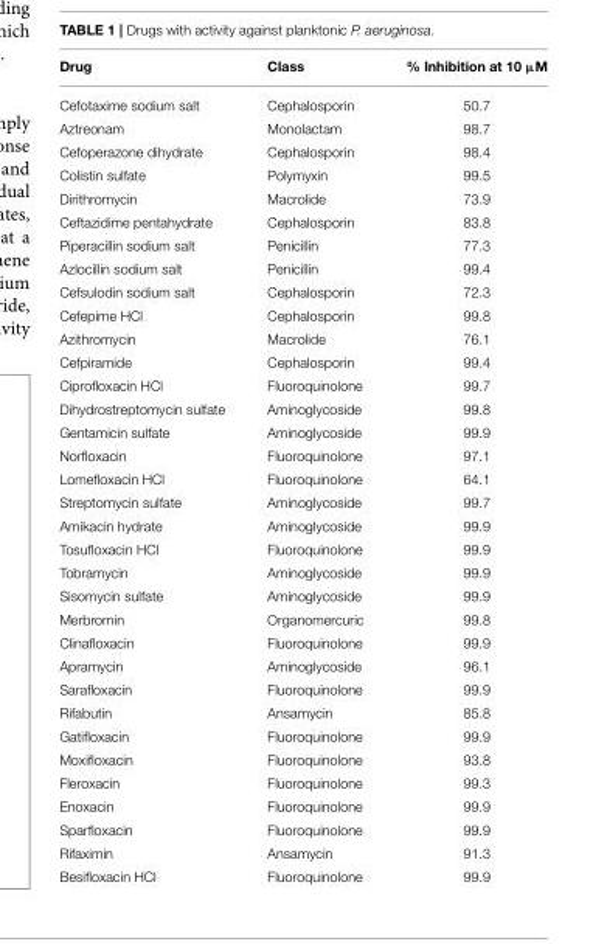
<table><thead><tr><td>Drug</td><td>Class</td><td>% Inhibition at 10 µM</td></tr></thead><tbody><tr><td>Cefotaxime sodium salt</td><td>Cephalosporin</td><td>50.7</td></tr><tr><td>Aztreonam</td><td>Monolactam</td><td>98.7</td></tr><tr><td>Cefoperazone dihydrate</td><td>Cephalosporin</td><td>98.4</td></tr><tr><td>Colistin sulfate</td><td>Polymyxin</td><td>99.5</td></tr><tr><td>Dirithromycin</td><td>Macrolide</td><td>73.9</td></tr><tr><td>Ceftazidime pentahydrate</td><td>Cephalosporin</td><td>83.8</td></tr><tr><td>Piperacillin sodium salt</td><td>Penicillin</td><td>77.3</td></tr><tr><td>Azlocillin sodium salt</td><td>Penicillin</td><td>99.4</td></tr><tr><td>Cefsulodin sodium salt</td><td>Cephalosporin</td><td>72.3</td></tr><tr><td>Cefepime HCl</td><td>Cephalosporin</td><td>99.8</td></tr><tr><td>Azithromycin</td><td>Macrolide</td><td>76.1</td></tr><tr><td>Cefpiramide</td><td>Cephalosporin</td><td>99.4</td></tr><tr><td>Ciprofloxacin HCl</td><td>Fluoroquinolone</td><td>99.7</td></tr><tr><td>Dihydrostreptomycin sulfate</td><td>Aminoglycoside</td><td>99.8</td></tr><tr><td>Gentamicin sulfate</td><td>Aminoglycoside</td><td>99.9</td></tr><tr><td>Norfloxacin</td><td>Fluoroquinolone</td><td>97.1</td></tr><tr><td>Lomefloxacin HCl</td><td>Fluoroquinolone</td><td>64.1</td></tr><tr><td>Streptomycin sulfate</td><td>Aminoglycoside</td><td>99.7</td></tr><tr><td>Amikacin hydrate</td><td>Aminoglycoside</td><td>99.9</td></tr><tr><td>Tosufloxacin HCl</td><td>Fluoroquinolone</td><td>99.9</td></tr><tr><td>Tobramycin</td><td>Aminoglycoside</td><td>99.9</td></tr><tr><td>Sisomycin sulfate</td><td>Aminoglycoside</td><td>99.9</td></tr><tr><td>Merbromin</td><td>Organomercuric</td><td>99.8</td></tr><tr><td>Clinafloxacin</td><td>Fluoroquinolone</td><td>99.9</td></tr><tr><td>Apramycin</td><td>Aminoglycoside</td><td>96.1</td></tr><tr><td>Sarafloxacin</td><td>Fluoroquinolone</td><td>99.9</td></tr><tr><td>Rifabutin</td><td>Ansamycin</td><td>85.8</td></tr><tr><td>Gatifloxacin</td><td>Fluoroquinolone</td><td>99.9</td></tr><tr><td>Moxifloxacin</td><td>Fluoroquinolone</td><td>93.8</td></tr><tr><td>Fleroxacin</td><td>Fluoroquinolone</td><td>99.3</td></tr><tr><td>Enoxacin</td><td>Fluoroquinolone</td><td>99.9</td></tr><tr><td>Sparfloxacin</td><td>Fluoroquinolone</td><td>99.9</td></tr><tr><td>Rifaximin</td><td>Ansamycin</td><td>91.3</td></tr><tr><td>Besifloxacin HCl</td><td>Fluoroquinolone</td><td>99.9</td></tr></tbody></table>